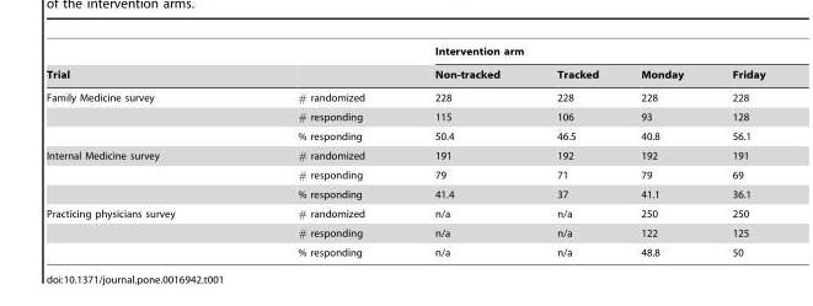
<table><thead><tr><td rowspan="2">Trial</td><td rowspan="2"></td><td colspan="4">Intervention arm</td></tr><tr><td>Non-tracked</td><td>Tracked</td><td>Monday</td><td>Friday</td></tr></thead><tbody><tr><td rowspan="3">Family Medicine survey</td><td># randomized</td><td>228</td><td>228</td><td>228</td><td>228</td></tr><tr><td># responding</td><td>115</td><td>106</td><td>93</td><td>128</td></tr><tr><td>% responding</td><td>50.4</td><td>46.5</td><td>40.8</td><td>56.1</td></tr><tr><td rowspan="3">Internal Medicine survey</td><td># randomized</td><td>191</td><td>192</td><td>192</td><td>191</td></tr><tr><td># responding</td><td>79</td><td>71</td><td>79</td><td>69</td></tr><tr><td>% responding</td><td>41.4</td><td>37</td><td>41.1</td><td>36.1</td></tr><tr><td rowspan="3">Practicing physicians survey</td><td># randomized</td><td>n/a</td><td>n/a</td><td>250</td><td>250</td></tr><tr><td># responding</td><td>n/a</td><td>n/a</td><td>122</td><td>125</td></tr><tr><td>% responding</td><td>n/a</td><td>n/a</td><td>48.8</td><td>50</td></tr></tbody></table>